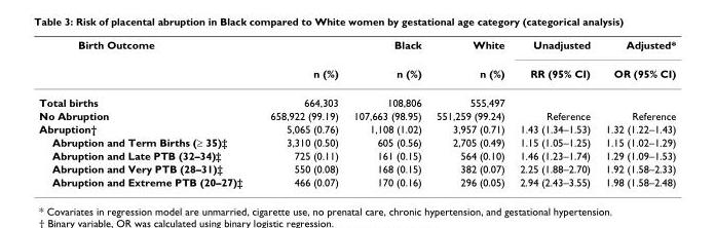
<table><thead><tr><td rowspan="2">Birth Outcome</td><td rowspan="2">n (%)</td><td rowspan="2">Black n (%)</td><td rowspan="2">White n (%)</td><td rowspan="2">Unadjusted RR (95% CI)</td><td rowspan="2">Adjusted* OR (95% CI)</td></tr><tr></tr></thead><tbody><tr><td>Total births</td><td>664,303</td><td>108,806</td><td>555,497</td><td></td><td></td></tr><tr><td>No Abruption</td><td>658,922 (99.19)</td><td>107,663 (98.95)</td><td>551,259 (99.24)</td><td>Reference</td><td>Reference</td></tr><tr><td>Abruption†</td><td>5,065 (0.76)</td><td>1,108 (1.02)</td><td>3,957 (0.71)</td><td>1.43 (1.34–1.53)</td><td>1.32 (1.22–1.43)</td></tr><tr><td>Abruption and Term Births (≥ 35)‡</td><td>3,310 (0.50)</td><td>605 (0.56)</td><td>2,705 (0.49)</td><td>1.15 (1.05–1.25)</td><td>1.15 (1.02–1.29)</td></tr><tr><td>Abruption and Late PTB (32–34)‡</td><td>725 (0.11)</td><td>161 (0.15)</td><td>564 (0.10)</td><td>1.46 (1.23–1.74)</td><td>1.29 (1.09–1.53)</td></tr><tr><td>Abruption and Very PTB (28–31)‡</td><td>550 (0.08)</td><td>168 (0.15)</td><td>382 (0.07)</td><td>2.25 (1.88–2.70)</td><td>1.92 (1.58–2.33)</td></tr><tr><td>Abruption and Extreme PTB (20–27)‡</td><td>466 (0.07)</td><td>170 (0.16)</td><td>296 (0.05)</td><td>2.94 (2.43–3.55)</td><td>1.98 (1.58–2.48)</td></tr></tbody></table>